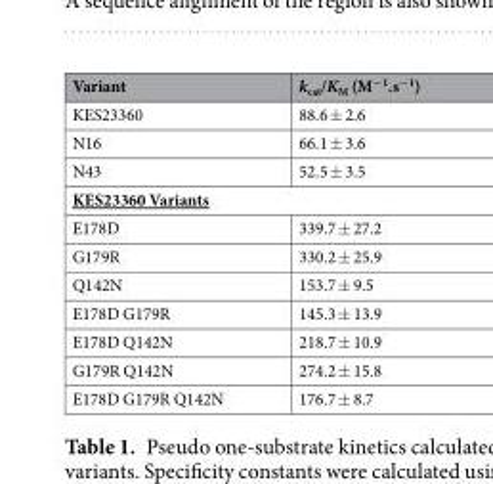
<table><thead><tr><td>Variant</td><td>k<sub>cat</sub>/K<sub>M</sub> (M<sup>−1</sup>.s<sup>−1</sup>)</td></tr></thead><tbody><tr><td>KES23360</td><td>88.6 ± 2.6</td></tr><tr><td>N16</td><td>66.1 ± 3.6</td></tr><tr><td>N43</td><td>52.5 ± 3.5</td></tr><tr><td colspan="2">KES23360 Variants</td></tr><tr><td>E178D</td><td>339.7 ± 27.2</td></tr><tr><td>G179R</td><td>330.2 ± 25.9</td></tr><tr><td>Q142N</td><td>153.7 ± 9.5</td></tr><tr><td>E178D G179R</td><td>145.3 ± 13.9</td></tr><tr><td>E178D Q142N</td><td>218.7 ± 10.9</td></tr><tr><td>G179R Q142N</td><td>274.2 ± 15.8</td></tr><tr><td>E178D G179R Q142N</td><td>176.7 ± 8.7</td></tr></tbody></table>